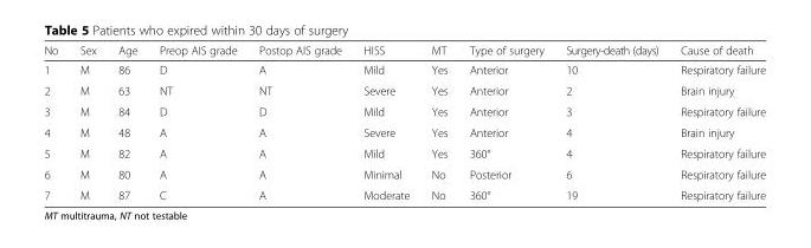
<table><thead><tr><td>No</td><td>Sex</td><td>Age</td><td>Preop AIS grade</td><td>Postop AIS grade</td><td>HISS</td><td>MT</td><td>Type of surgery</td><td>Surgery-death (days)</td><td>Cause of death</td></tr></thead><tbody><tr><td>1</td><td>M</td><td>86</td><td>D</td><td>A</td><td>Mild</td><td>Yes</td><td>Anterior</td><td>10</td><td>Respiratory failure</td></tr><tr><td>2</td><td>M</td><td>63</td><td>NT</td><td>NT</td><td>Severe</td><td>Yes</td><td>Anterior</td><td>2</td><td>Brain injury</td></tr><tr><td>3</td><td>M</td><td>84</td><td>D</td><td>D</td><td>Mild</td><td>Yes</td><td>Anterior</td><td>3</td><td>Respiratory failure</td></tr><tr><td>4</td><td>M</td><td>48</td><td>A</td><td>A</td><td>Severe</td><td>Yes</td><td>Anterior</td><td>4</td><td>Brain injury</td></tr><tr><td>5</td><td>M</td><td>82</td><td>A</td><td>A</td><td>Mild</td><td>Yes</td><td>360°</td><td>4</td><td>Respiratory failure</td></tr><tr><td>6</td><td>M</td><td>80</td><td>A</td><td>A</td><td>Minimal</td><td>No</td><td>Posterior</td><td>6</td><td>Respiratory failure</td></tr><tr><td>7</td><td>M</td><td>87</td><td>C</td><td>A</td><td>Moderate</td><td>No</td><td>360°</td><td>19</td><td>Respiratory failure</td></tr></tbody></table>